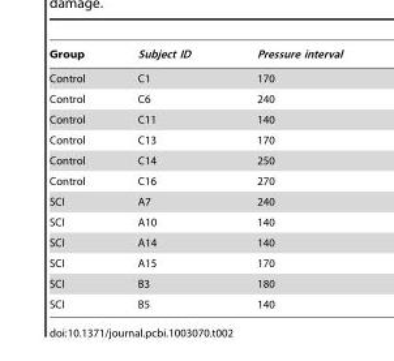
<table><thead><tr><td>Group</td><td>Subject ID</td><td>Pressure interval</td></tr></thead><tbody><tr><td>Control</td><td>C1</td><td>170</td></tr><tr><td>Control</td><td>C6</td><td>240</td></tr><tr><td>Control</td><td>C11</td><td>140</td></tr><tr><td>Control</td><td>C13</td><td>170</td></tr><tr><td>Control</td><td>C14</td><td>250</td></tr><tr><td>Control</td><td>C16</td><td>270</td></tr><tr><td>SCI</td><td>A7</td><td>240</td></tr><tr><td>SCI</td><td>A10</td><td>140</td></tr><tr><td>SCI</td><td>A14</td><td>140</td></tr><tr><td>SCI</td><td>A15</td><td>170</td></tr><tr><td>SCI</td><td>B3</td><td>180</td></tr><tr><td>SCI</td><td>B5</td><td>140</td></tr></tbody></table>